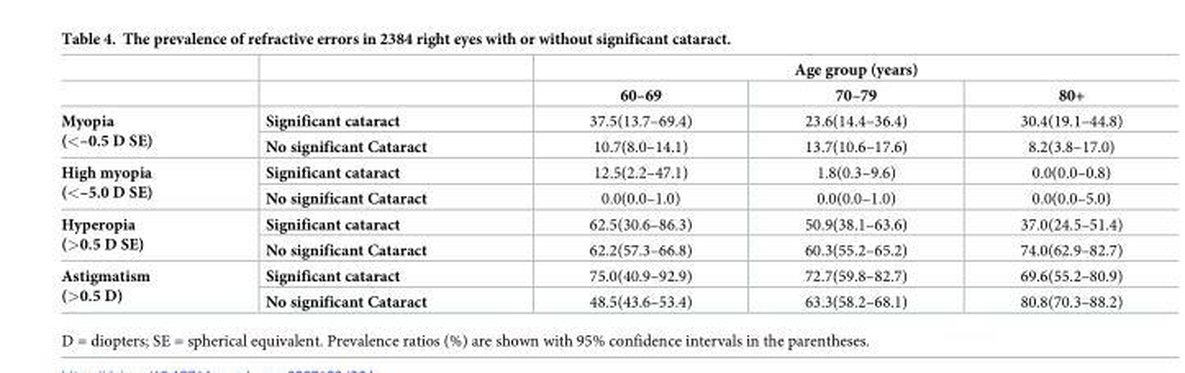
<table><thead><tr><td rowspan="2"></td><td rowspan="2"></td><td colspan="3">Age group (years)</td></tr><tr><td>60–69</td><td>70–79</td><td>80+</td></tr></thead><tbody><tr><td rowspan="2">Myopia (&lt;–0.5 D SE)</td><td>Significant cataract</td><td>37.5(13.7–69.4)</td><td>23.6(14.4–36.4)</td><td>30.4(19.1–44.8)</td></tr><tr><td>No significant Cataract</td><td>10.7(8.0–14.1)</td><td>13.7(10.6–17.6)</td><td>8.2(3.8–17.0)</td></tr><tr><td rowspan="2">High myopia (&lt;–5.0 D SE)</td><td>Significant cataract</td><td>12.5(2.2–47.1)</td><td>1.8(0.3–9.6)</td><td>0.0(0.0–0.8)</td></tr><tr><td>No significant Cataract</td><td>0.0(0.0–1.0)</td><td>0.0(0.0–1.0)</td><td>0.0(0.0–5.0)</td></tr><tr><td rowspan="2">Hyperopia (&gt;0.5 D SE)</td><td>Significant cataract</td><td>62.5(30.6–86.3)</td><td>50.9(38.1–63.6)</td><td>37.0(24.5–51.4)</td></tr><tr><td>No significant Cataract</td><td>62.2(57.3–66.8)</td><td>60.3(55.2–65.2)</td><td>74.0(62.9–82.7)</td></tr><tr><td rowspan="2">Astigmatism (&gt;0.5 D)</td><td>Significant cataract</td><td>75.0(40.9–92.9)</td><td>72.7(59.8–82.7)</td><td>69.6(55.2–80.9)</td></tr><tr><td>No significant Cataract</td><td>48.5(43.6–53.4)</td><td>63.3(58.2–68.1)</td><td>80.8(70.3–88.2)</td></tr></tbody></table>